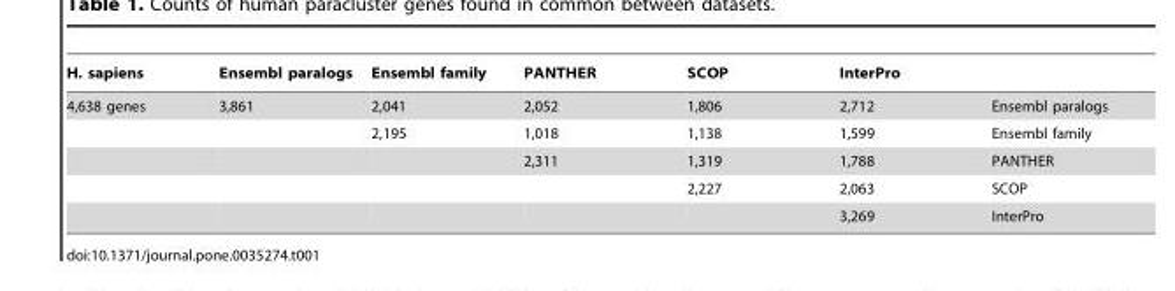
<table><thead><tr><td>H. sapiens</td><td>Ensembl paralogs</td><td>Ensembl family</td><td>PANTHER</td><td>SCOP</td><td>InterPro</td><td></td></tr></thead><tbody><tr><td rowspan="5">4,638 genes</td><td>3,861</td><td>2,041</td><td>2,052</td><td>1,806</td><td>2,712</td><td>Ensembl paralogs</td></tr><tr><td></td><td>2,195</td><td>1,018</td><td>1,138</td><td>1,599</td><td>Ensembl family</td></tr><tr><td></td><td></td><td>2,311</td><td>1,319</td><td>1,788</td><td>PANTHER</td></tr><tr><td></td><td></td><td></td><td>2,227</td><td>2,063</td><td>SCOP</td></tr><tr><td></td><td></td><td></td><td></td><td>3,269</td><td>InterPro</td></tr></tbody></table>